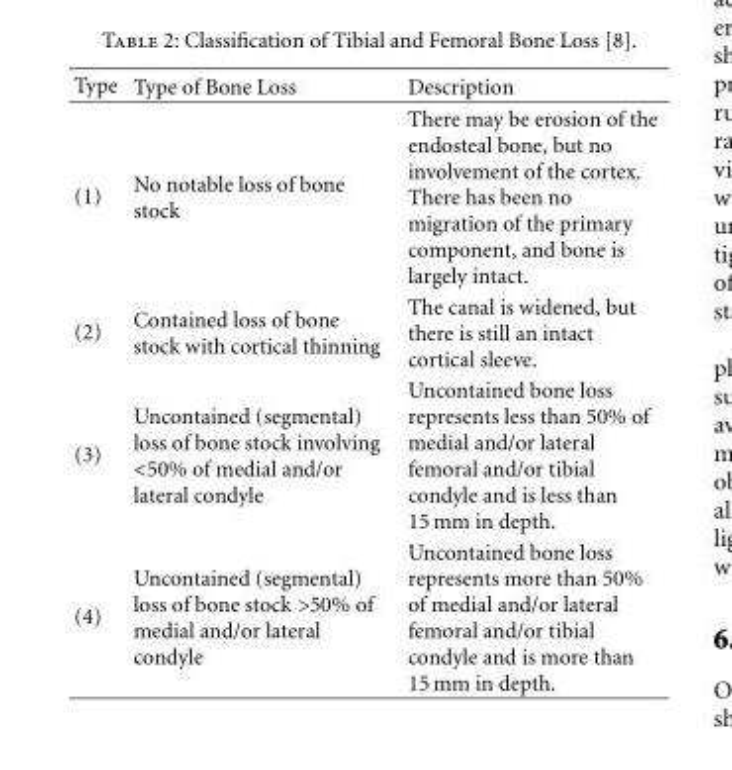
<table><thead><tr><td>Type</td><td>Type of Bone Loss</td><td>Description</td></tr></thead><tbody><tr><td>(1)</td><td>No notable loss of bone stock</td><td>There may be erosion of the endosteal bone, but no involvement of the cortex. There has been no migration of the primary component, and bone is largely intact.</td></tr><tr><td>(2)</td><td>Contained loss of bone stock with cortical thinning</td><td>The canal is widened, but there is still an intact cortical sleeve.</td></tr><tr><td>(3)</td><td>Uncontained (segmental) loss of bone stock involving &lt;50% of medial and/or lateral condyle</td><td>Uncontained bone loss represents less than 50% of medial and/or lateral femoral and/or tibial condyle and is less than 15 mm in depth.</td></tr><tr><td>(4)</td><td>Uncontained (segmental) loss of bone stock &gt;50% of medial and/or lateral condyle</td><td>Uncontained bone loss represents more than 50% of medial and/or lateral femoral and/or tibial condyle and is more than 15 mm in depth.</td></tr></tbody></table>